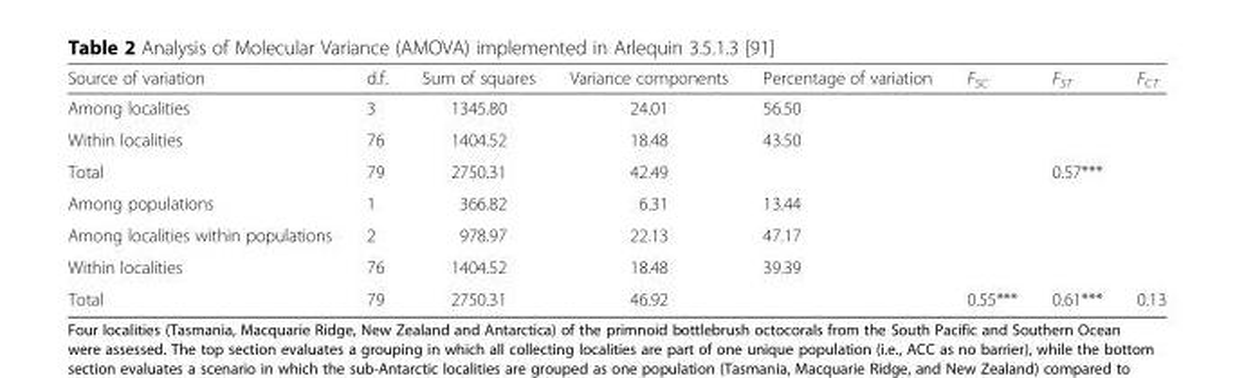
<table><thead><tr><td>Source of variation</td><td>d.f.</td><td>Sum of squares</td><td>Variance components</td><td>Percentage of variation</td><td>F<sub>SC</sub></td><td>F<sub>ST</sub></td><td>F<sub>CT</sub></td></tr></thead><tbody><tr><td>Among localities</td><td>3</td><td>1345.80</td><td>24.01</td><td>56.50</td><td></td><td></td><td></td></tr><tr><td>Within localities</td><td>76</td><td>1404.52</td><td>18.48</td><td>43.50</td><td></td><td></td><td></td></tr><tr><td>Total</td><td>79</td><td>2750.31</td><td>42.49</td><td></td><td></td><td>0.57***</td><td></td></tr><tr><td>Among populations</td><td>1</td><td>366.82</td><td>6.31</td><td>13.44</td><td></td><td></td><td></td></tr><tr><td>Among localities within populations</td><td>2</td><td>978.97</td><td>22.13</td><td>47.17</td><td></td><td></td><td></td></tr><tr><td>Within localities</td><td>76</td><td>1404.52</td><td>18.48</td><td>39.39</td><td></td><td></td><td></td></tr><tr><td>Total</td><td>79</td><td>2750.31</td><td>46.92</td><td></td><td>0.55***</td><td>0.61***</td><td>0.13</td></tr></tbody></table>